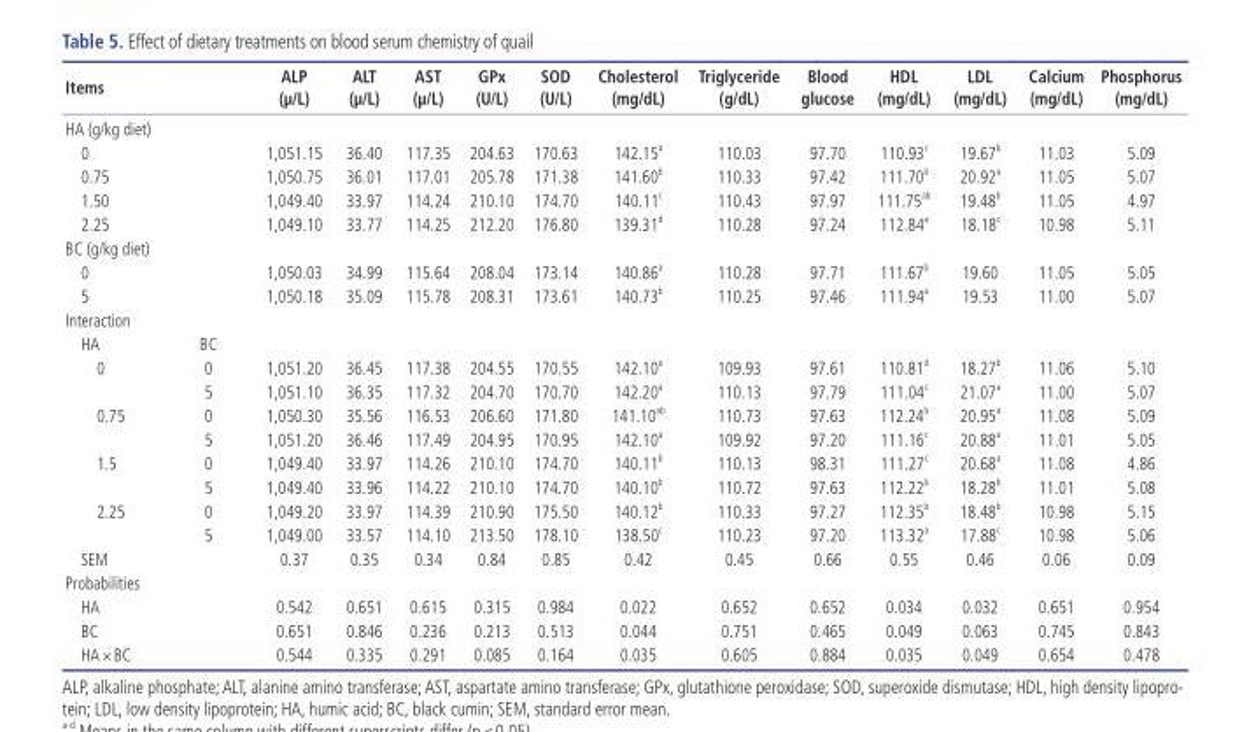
<table><thead><tr><td colspan="2">Items</td><td>ALP (μ/L)</td><td>ALT (μ/L)</td><td>AST (μ/L)</td><td>GPx (U/L)</td><td>SOD (U/L)</td><td>Cholesterol (mg/dL)</td><td>Triglyceride (g/dL)</td><td>Blood glucose</td><td>HDL (mg/dL)</td><td>LDL (mg/dL)</td><td>Calcium (mg/dL)</td><td>Phosphorus (mg/dL)</td></tr><tr><td colspan="14">HA (g/kg diet)</td></tr><tr><td>0</td><td></td><td>1,051.15</td><td>36.40</td><td>117.35</td><td>204.63</td><td>170.63</td><td>142.15 <sup>a</sup></td><td>110.03</td><td>97.70</td><td>110.93 <sup>c</sup></td><td>19.67 <sup>b</sup></td><td>11.03</td><td>5.09</td></tr></thead><tbody><tr><td>0.75</td><td></td><td>1,050.75</td><td>36.01</td><td>117.01</td><td>205.78</td><td>171.38</td><td>141.60 <sup>b</sup></td><td>110.33</td><td>97.42</td><td>111.70 <sup>b</sup></td><td>20.92 <sup>a</sup></td><td>11.05</td><td>5.07</td></tr><tr><td>1.50</td><td></td><td>1,049.40</td><td>33.97</td><td>114.24</td><td>210.10</td><td>174.70</td><td>140.11 <sup>c</sup></td><td>110.43</td><td>97.97</td><td>111.75 <sup>ab</sup></td><td>19.48 <sup>b</sup></td><td>11.05</td><td>4.97</td></tr><tr><td>2.25</td><td></td><td>1,049.10</td><td>33.77</td><td>114.25</td><td>212.20</td><td>176.80</td><td>139.31 <sup>d</sup></td><td>110.28</td><td>97.24</td><td>112.84 <sup>a</sup></td><td>18.18 <sup>c</sup></td><td>10.98</td><td>5.11</td></tr><tr><td colspan="14">BC (g/kg diet)</td></tr><tr><td>0</td><td></td><td>1,050.03</td><td>34.99</td><td>115.64</td><td>208.04</td><td>173.14</td><td>140.86 <sup>a</sup></td><td>110.28</td><td>97.71</td><td>111.67 <sup>b</sup></td><td>19.60</td><td>11.05</td><td>5.05</td></tr><tr><td>5</td><td></td><td>1,050.18</td><td>35.09</td><td>115.78</td><td>208.31</td><td>173.61</td><td>140.73 <sup>b</sup></td><td>110.25</td><td>97.46</td><td>111.94 <sup>a</sup></td><td>19.53</td><td>11.00</td><td>5.07</td></tr><tr><td colspan="14">Interaction</td></tr><tr><td>HA</td><td>BC</td><td></td><td></td><td></td><td></td><td></td><td></td><td></td><td></td><td></td><td></td><td></td><td></td></tr><tr><td rowspan="2">0</td><td>0</td><td>1,051.20</td><td>36.45</td><td>117.38</td><td>204.55</td><td>170.55</td><td>142.10 <sup>a</sup></td><td>109.93</td><td>97.61</td><td>110.81 <sup>d</sup></td><td>18.27 <sup>b</sup></td><td>11.06</td><td>5.10</td></tr><tr><td>5</td><td>1,051.10</td><td>36.35</td><td>117.32</td><td>204.70</td><td>170.70</td><td>142.20 <sup>a</sup></td><td>110.13</td><td>97.79</td><td>111.04 <sup>c</sup></td><td>21.07 <sup>a</sup></td><td>11.00</td><td>5.07</td></tr><tr><td rowspan="2">0.75</td><td>0</td><td>1,050.30</td><td>35.56</td><td>116.53</td><td>206.60</td><td>171.80</td><td>141.10 <sup>ab</sup></td><td>110.73</td><td>97.63</td><td>112.24 <sup>b</sup></td><td>20.95 <sup>a</sup></td><td>11.08</td><td>5.09</td></tr><tr><td>5</td><td>1,051.20</td><td>36.46</td><td>117.49</td><td>204.95</td><td>170.95</td><td>142.10 <sup>a</sup></td><td>109.92</td><td>97.20</td><td>111.16 <sup>c</sup></td><td>20.88 <sup>a</sup></td><td>11.01</td><td>5.05</td></tr><tr><td rowspan="2">1.5</td><td>0</td><td>1,049.40</td><td>33.97</td><td>114.26</td><td>210.10</td><td>174.70</td><td>140.11 <sup>b</sup></td><td>110.13</td><td>98.31</td><td>111.27 <sup>c</sup></td><td>20.68 <sup>a</sup></td><td>11.08</td><td>4.86</td></tr><tr><td>5</td><td>1,049.40</td><td>33.96</td><td>114.22</td><td>210.10</td><td>174.70</td><td>140.10 <sup>b</sup></td><td>110.72</td><td>97.63</td><td>112.22 <sup>b</sup></td><td>18.28 <sup>b</sup></td><td>11.01</td><td>5.08</td></tr><tr><td rowspan="2">2.25</td><td>0</td><td>1,049.20</td><td>33.97</td><td>114.39</td><td>210.90</td><td>175.50</td><td>140.12 <sup>b</sup></td><td>110.33</td><td>97.27</td><td>112.35 <sup>b</sup></td><td>18.48 <sup>b</sup></td><td>10.98</td><td>5.15</td></tr><tr><td>5</td><td>1,049.00</td><td>33.57</td><td>114.10</td><td>213.50</td><td>178.10</td><td>138.50 <sup>c</sup></td><td>110.23</td><td>97.20</td><td>113.32 <sup>a</sup></td><td>17.88 <sup>c</sup></td><td>10.98</td><td>5.06</td></tr><tr><td>SEM</td><td></td><td>0.37</td><td>0.35</td><td>0.34</td><td>0.84</td><td>0.85</td><td>0.42</td><td>0.45</td><td>0.66</td><td>0.55</td><td>0.46</td><td>0.06</td><td>0.09</td></tr><tr><td colspan="14">Probabilities</td></tr><tr><td>HA</td><td></td><td>0.542</td><td>0.651</td><td>0.615</td><td>0.315</td><td>0.984</td><td>0.022</td><td>0.652</td><td>0.652</td><td>0.034</td><td>0.032</td><td>0.651</td><td>0.954</td></tr><tr><td>BC</td><td></td><td>0.651</td><td>0.846</td><td>0.236</td><td>0.213</td><td>0.513</td><td>0.044</td><td>0.751</td><td>0.465</td><td>0.049</td><td>0.063</td><td>0.745</td><td>0.843</td></tr><tr><td>HA×BC</td><td></td><td>0.544</td><td>0.335</td><td>0.291</td><td>0.085</td><td>0.164</td><td>0.035</td><td>0.605</td><td>0.884</td><td>0.035</td><td>0.049</td><td>0.654</td><td>0.478</td></tr></tbody></table>